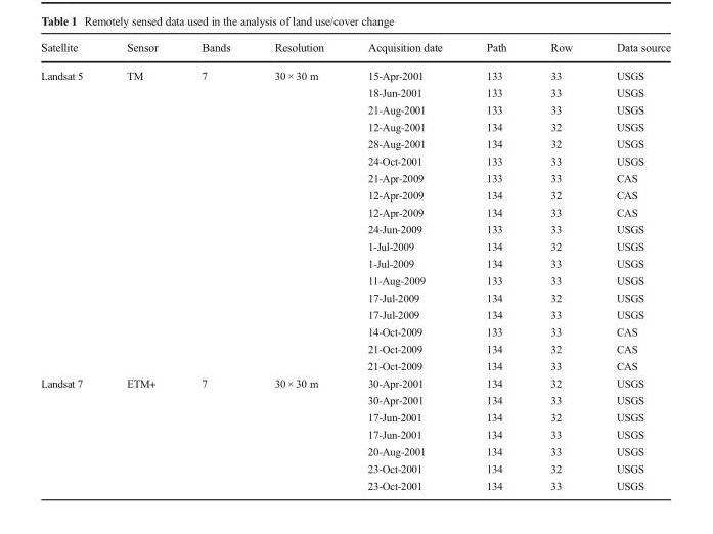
<table><thead><tr><td>Satellite</td><td>Sensor</td><td>Bands</td><td>Resolution</td><td>Acquisition date</td><td>Path</td><td>Row</td><td>Data source</td></tr></thead><tbody><tr><td rowspan="18">Landsat 5</td><td>TM</td><td>7</td><td>30 × 30 m</td><td>15-Apr-2001</td><td>133</td><td>33</td><td>USGS</td></tr><tr><td></td><td></td><td></td><td>18-Jun-2001</td><td>133</td><td>33</td><td>USGS</td></tr><tr><td></td><td></td><td></td><td>21-Aug-2001</td><td>133</td><td>33</td><td>USGS</td></tr><tr><td></td><td></td><td></td><td>12-Aug-2001</td><td>134</td><td>32</td><td>USGS</td></tr><tr><td></td><td></td><td></td><td>28-Aug-2001</td><td>134</td><td>32</td><td>USGS</td></tr><tr><td></td><td></td><td></td><td>24-Oct-2001</td><td>133</td><td>33</td><td>USGS</td></tr><tr><td></td><td></td><td></td><td>21-Apr-2009</td><td>133</td><td>33</td><td>CAS</td></tr><tr><td></td><td></td><td></td><td>12-Apr-2009</td><td>134</td><td>32</td><td>CAS</td></tr><tr><td></td><td></td><td></td><td>12-Apr-2009</td><td>134</td><td>33</td><td>CAS</td></tr><tr><td></td><td></td><td></td><td>24-Jun-2009</td><td>133</td><td>33</td><td>USGS</td></tr><tr><td></td><td></td><td></td><td>1-Jul-2009</td><td>134</td><td>32</td><td>USGS</td></tr><tr><td></td><td></td><td></td><td>1-Jul-2009</td><td>134</td><td>33</td><td>USGS</td></tr><tr><td></td><td></td><td></td><td>11-Aug-2009</td><td>133</td><td>33</td><td>USGS</td></tr><tr><td></td><td></td><td></td><td>17-Jul-2009</td><td>134</td><td>32</td><td>USGS</td></tr><tr><td></td><td></td><td></td><td>17-Jul-2009</td><td>134</td><td>33</td><td>USGS</td></tr><tr><td></td><td></td><td></td><td>14-Oct-2009</td><td>133</td><td>33</td><td>CAS</td></tr><tr><td></td><td></td><td></td><td>21-Oct-2009</td><td>134</td><td>32</td><td>CAS</td></tr><tr><td></td><td></td><td></td><td>21-Oct-2009</td><td>134</td><td>33</td><td>CAS</td></tr><tr><td rowspan="7">Landsat 7</td><td>ETM+</td><td>7</td><td>30 × 30 m</td><td>30-Apr-2001</td><td>134</td><td>32</td><td>USGS</td></tr><tr><td></td><td></td><td></td><td>30-Apr-2001</td><td>134</td><td>33</td><td>USGS</td></tr><tr><td></td><td></td><td></td><td>17-Jun-2001</td><td>134</td><td>32</td><td>USGS</td></tr><tr><td></td><td></td><td></td><td>17-Jun-2001</td><td>134</td><td>33</td><td>USGS</td></tr><tr><td></td><td></td><td></td><td>20-Aug-2001</td><td>134</td><td>33</td><td>USGS</td></tr><tr><td></td><td></td><td></td><td>23-Oct-2001</td><td>134</td><td>32</td><td>USGS</td></tr><tr><td></td><td></td><td></td><td>23-Oct-2001</td><td>134</td><td>33</td><td>USGS</td></tr></tbody></table>